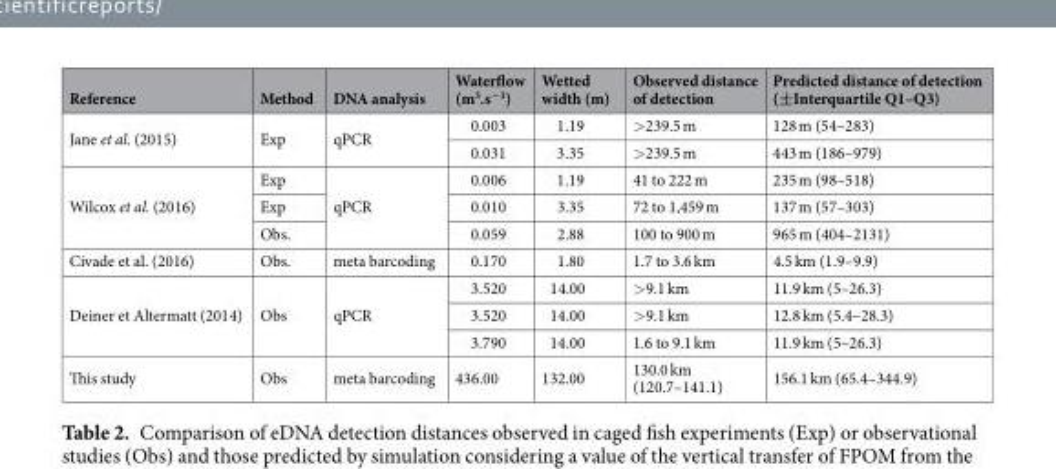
<table><thead><tr><td>Reference</td><td>Method</td><td>DNA analysis</td><td>Waterflow (m<sup>3</sup>.s<sup>−1</sup>)</td><td>Wetted width (m)</td><td>Observed distance of detection</td><td>Predicted distance of detection (±Interquartile Q1–Q3)</td></tr></thead><tbody><tr><td rowspan="2">Jane et al. (2015)</td><td rowspan="2">Exp</td><td rowspan="2">qPCR</td><td>0.003</td><td>1.19</td><td>&gt;239.5 m</td><td>128 m (54–283)</td></tr><tr><td>0.031</td><td>3.35</td><td>&gt;239.5 m</td><td>443 m (186–979)</td></tr><tr><td rowspan="3">Wilcox et al. (2016)</td><td>Exp</td><td rowspan="3">qPCR</td><td>0.006</td><td>1.19</td><td>41 to 222 m</td><td>235 m (98–518)</td></tr><tr><td>Exp</td><td>0.010</td><td>3.35</td><td>72 to 1,459 m</td><td>137 m (57–303)</td></tr><tr><td>Obs.</td><td>0.059</td><td>2.88</td><td>100 to 900 m</td><td>965 m (404–2131)</td></tr><tr><td>Civade et al. (2016)</td><td>Obs.</td><td>meta barcoding</td><td>0.170</td><td>1.80</td><td>1.7 to 3.6 km</td><td>4.5 km (1.9–9.9)</td></tr><tr><td rowspan="3">Deiner et Altermatt (2014)</td><td rowspan="3">Obs</td><td rowspan="3">qPCR</td><td>3.520</td><td>14.00</td><td>&gt;9.1 km</td><td>11.9 km (5–26.3)</td></tr><tr><td>3.520</td><td>14.00</td><td>&gt;9.1 km</td><td>12.8 km (5.4–28.3)</td></tr><tr><td>3.790</td><td>14.00</td><td>1.6 to 9.1 km</td><td>11.9 km (5–26.3)</td></tr><tr><td>This study</td><td>Obs</td><td>meta barcoding</td><td>436.00</td><td>132.00</td><td>130.0 km (120.7–141.1)</td><td>156.1 km (65.4–344.9)</td></tr></tbody></table>